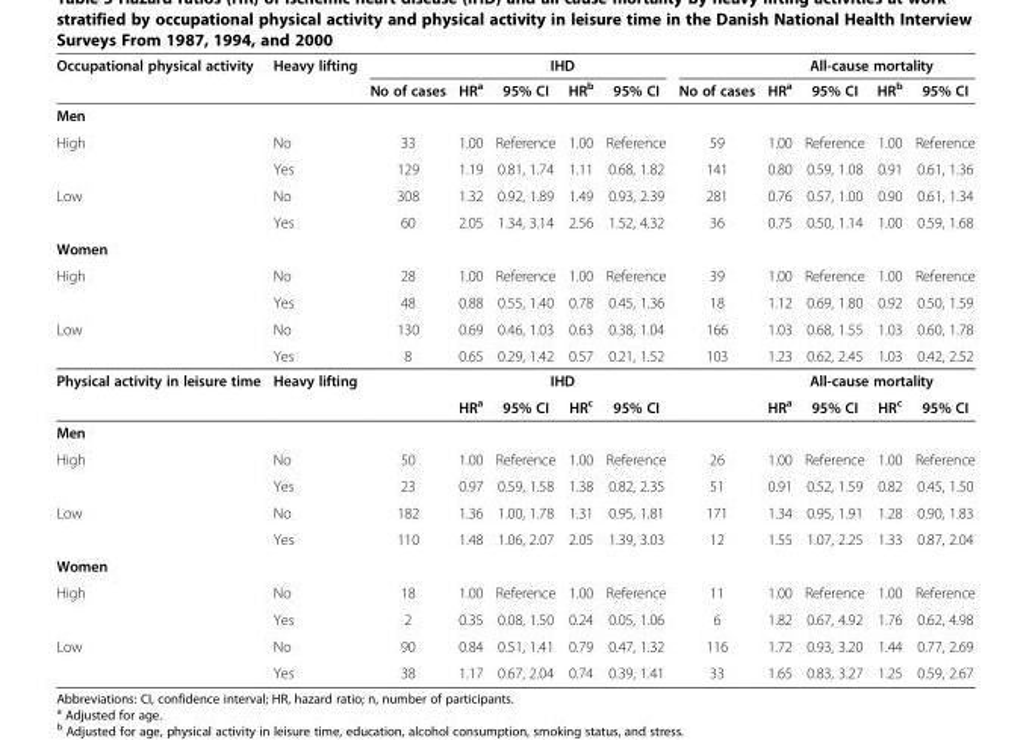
<table><thead><tr><td rowspan="2">Occupational physical activity</td><td rowspan="2">Heavy lifting</td><td rowspan="2">No of cases</td><td colspan="4">IHD</td><td rowspan="2">No of cases</td><td colspan="4">All-cause mortality</td></tr><tr><td>HR<sup>a</sup></td><td>95% CI</td><td>HR<sup>b</sup></td><td>95% CI</td><td>HR<sup>a</sup></td><td>95% CI</td><td>HR<sup>b</sup></td><td>95% CI</td></tr></thead><tbody><tr><td colspan="12">Men</td></tr><tr><td rowspan="2">High</td><td>No</td><td>33</td><td>1.00</td><td>Reference</td><td>1.00</td><td>Reference</td><td>59</td><td>1.00</td><td>Reference</td><td>1.00</td><td>Reference</td></tr><tr><td>Yes</td><td>129</td><td>1.19</td><td>0.81, 1.74</td><td>1.11</td><td>0.68, 1.82</td><td>141</td><td>0.80</td><td>0.59, 1.08</td><td>0.91</td><td>0.61, 1.36</td></tr><tr><td rowspan="2">Low</td><td>No</td><td>308</td><td>1.32</td><td>0.92, 1.89</td><td>1.49</td><td>0.93, 2.39</td><td>281</td><td>0.76</td><td>0.57, 1.00</td><td>0.90</td><td>0.61, 1.34</td></tr><tr><td>Yes</td><td>60</td><td>2.05</td><td>1.34, 3.14</td><td>2.56</td><td>1.52, 4.32</td><td>36</td><td>0.75</td><td>0.50, 1.14</td><td>1.00</td><td>0.59, 1.68</td></tr><tr><td colspan="12">Women</td></tr><tr><td rowspan="2">High</td><td>No</td><td>28</td><td>1.00</td><td>Reference</td><td>1.00</td><td>Reference</td><td>39</td><td>1.00</td><td>Reference</td><td>1.00</td><td>Reference</td></tr><tr><td>Yes</td><td>48</td><td>0.88</td><td>0.55, 1.40</td><td>0.78</td><td>0.45, 1.36</td><td>18</td><td>1.12</td><td>0.69, 1.80</td><td>0.92</td><td>0.50, 1.59</td></tr><tr><td rowspan="2">Low</td><td>No</td><td>130</td><td>0.69</td><td>0.46, 1.03</td><td>0.63</td><td>0.38, 1.04</td><td>166</td><td>1.03</td><td>0.68, 1.55</td><td>1.03</td><td>0.60, 1.78</td></tr><tr><td>Yes</td><td>8</td><td>0.65</td><td>0.29, 1.42</td><td>0.57</td><td>0.21, 1.52</td><td>103</td><td>1.23</td><td>0.62, 2.45</td><td>1.03</td><td>0.42, 2.52</td></tr><tr><td rowspan="2">Physical activity in leisure time</td><td>Heavy lifting</td><td></td><td colspan="4">IHD</td><td></td><td colspan="4">All-cause mortality</td></tr><tr><td></td><td></td><td>HR<sup>a</sup></td><td>95% CI</td><td>HR<sup>c</sup></td><td>95% CI</td><td></td><td>HR<sup>a</sup></td><td>95% CI</td><td>HR<sup>c</sup></td><td>95% CI</td></tr><tr><td colspan="12">Men</td></tr><tr><td rowspan="2">High</td><td>No</td><td>50</td><td>1.00</td><td>Reference</td><td>1.00</td><td>Reference</td><td>26</td><td>1.00</td><td>Reference</td><td>1.00</td><td>Reference</td></tr><tr><td>Yes</td><td>23</td><td>0.97</td><td>0.59, 1.58</td><td>1.38</td><td>0.82, 2.35</td><td>51</td><td>0.91</td><td>0.52, 1.59</td><td>0.82</td><td>0.45, 1.50</td></tr><tr><td rowspan="2">Low</td><td>No</td><td>182</td><td>1.36</td><td>1.00, 1.78</td><td>1.31</td><td>0.95, 1.81</td><td>171</td><td>1.34</td><td>0.95, 1.91</td><td>1.28</td><td>0.90, 1.83</td></tr><tr><td>Yes</td><td>110</td><td>1.48</td><td>1.06, 2.07</td><td>2.05</td><td>1.39, 3.03</td><td>12</td><td>1.55</td><td>1.07, 2.25</td><td>1.33</td><td>0.87, 2.04</td></tr><tr><td colspan="12">Women</td></tr><tr><td rowspan="2">High</td><td>No</td><td>18</td><td>1.00</td><td>Reference</td><td>1.00</td><td>Reference</td><td>11</td><td>1.00</td><td>Reference</td><td>1.00</td><td>Reference</td></tr><tr><td>Yes</td><td>2</td><td>0.35</td><td>0.08, 1.50</td><td>0.24</td><td>0.05, 1.06</td><td>6</td><td>1.82</td><td>0.67, 4.92</td><td>1.76</td><td>0.62, 4.98</td></tr><tr><td rowspan="2">Low</td><td>No</td><td>90</td><td>0.84</td><td>0.51, 1.41</td><td>0.79</td><td>0.47, 1.32</td><td>116</td><td>1.72</td><td>0.93, 3.20</td><td>1.44</td><td>0.77, 2.69</td></tr><tr><td>Yes</td><td>38</td><td>1.17</td><td>0.67, 2.04</td><td>0.74</td><td>0.39, 1.41</td><td>33</td><td>1.65</td><td>0.83, 3.27</td><td>1.25</td><td>0.59, 2.67</td></tr></tbody></table>